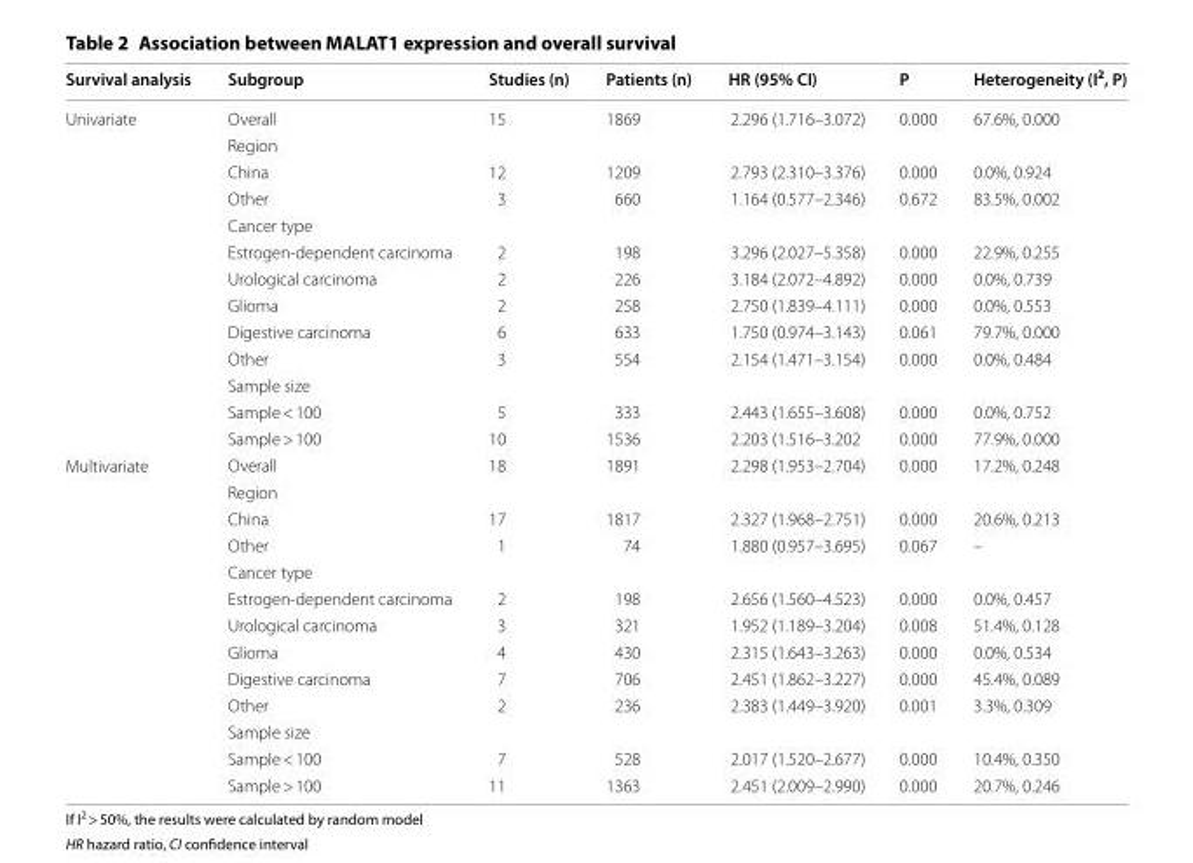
<table><thead><tr><td>Survival analysis</td><td>Subgroup</td><td>Studies (n)</td><td>Patients (n)</td><td>HR (95% CI)</td><td>P</td><td>Heterogeneity (I<sup>2</sup>, P)</td></tr></thead><tbody><tr><td rowspan="13">Univariate</td><td>Overall</td><td>15</td><td>1869</td><td>2.296 (1.716–3.072)</td><td>0.000</td><td>67.6%, 0.000</td></tr><tr><td colspan="6">Region</td></tr><tr><td>China</td><td>12</td><td>1209</td><td>2.793 (2.310–3.376)</td><td>0.000</td><td>0.0%, 0.924</td></tr><tr><td>Other</td><td>3</td><td>660</td><td>1.164 (0.577–2.346)</td><td>0.672</td><td>83.5%, 0.002</td></tr><tr><td colspan="6">Cancer type</td></tr><tr><td>Estrogen-dependent carcinoma</td><td>2</td><td>198</td><td>3.296 (2.027–5.358)</td><td>0.000</td><td>22.9%, 0.255</td></tr><tr><td>Urological carcinoma</td><td>2</td><td>226</td><td>3.184 (2.072–4.892)</td><td>0.000</td><td>0.0%, 0.739</td></tr><tr><td>Glioma</td><td>2</td><td>258</td><td>2.750 (1.839–4.111)</td><td>0.000</td><td>0.0%, 0.553</td></tr><tr><td>Digestive carcinoma</td><td>6</td><td>633</td><td>1.750 (0.974–3.143)</td><td>0.061</td><td>79.7%, 0.000</td></tr><tr><td>Other</td><td>3</td><td>554</td><td>2.154 (1.471–3.154)</td><td>0.000</td><td>0.0%, 0.484</td></tr><tr><td colspan="6">Sample size</td></tr><tr><td>Sample &lt; 100</td><td>5</td><td>333</td><td>2.443 (1.655–3.608)</td><td>0.000</td><td>0.0%, 0.752</td></tr><tr><td>Sample &gt; 100</td><td>10</td><td>1536</td><td>2.203 (1.516–3.202</td><td>0.000</td><td>77.9%, 0.000</td></tr><tr><td rowspan="13">Multivariate</td><td>Overall</td><td>18</td><td>1891</td><td>2.298 (1.953–2.704)</td><td>0.000</td><td>17.2%, 0.248</td></tr><tr><td colspan="6">Region</td></tr><tr><td>China</td><td>17</td><td>1817</td><td>2.327 (1.968–2.751)</td><td>0.000</td><td>20.6%, 0.213</td></tr><tr><td>Other</td><td>1</td><td>74</td><td>1.880 (0.957–3.695)</td><td>0.067</td><td>–</td></tr><tr><td colspan="6">Cancer type</td></tr><tr><td>Estrogen-dependent carcinoma</td><td>2</td><td>198</td><td>2.656 (1.560–4.523)</td><td>0.000</td><td>0.0%, 0.457</td></tr><tr><td>Urological carcinoma</td><td>3</td><td>321</td><td>1.952 (1.189–3.204)</td><td>0.008</td><td>51.4%, 0.128</td></tr><tr><td>Glioma</td><td>4</td><td>430</td><td>2.315 (1.643–3.263)</td><td>0.000</td><td>0.0%, 0.534</td></tr><tr><td>Digestive carcinoma</td><td>7</td><td>706</td><td>2.451 (1.862–3.227)</td><td>0.000</td><td>45.4%, 0.089</td></tr><tr><td>Other</td><td>2</td><td>236</td><td>2.383 (1.449–3.920)</td><td>0.001</td><td>3.3%, 0.309</td></tr><tr><td colspan="6">Sample size</td></tr><tr><td>Sample &lt; 100</td><td>7</td><td>528</td><td>2.017 (1.520–2.677)</td><td>0.000</td><td>10.4%, 0.350</td></tr><tr><td>Sample &gt; 100</td><td>11</td><td>1363</td><td>2.451 (2.009–2.990)</td><td>0.000</td><td>20.7%, 0.246</td></tr></tbody></table>